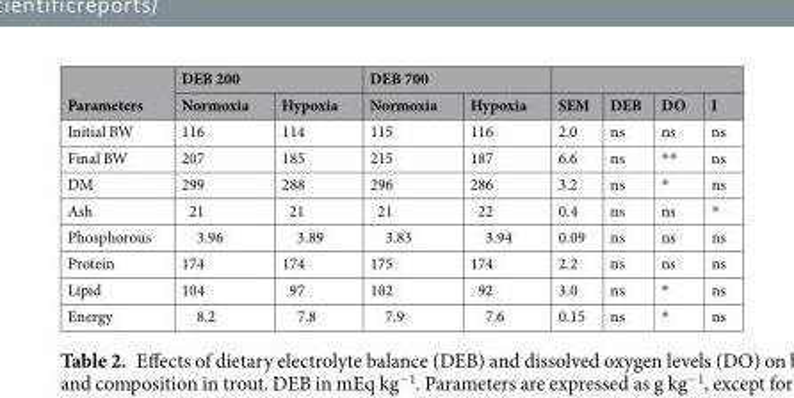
<table><thead><tr><td rowspan="2">Parameters</td><td colspan="2">DEB 200</td><td colspan="2">DEB 700</td><td rowspan="2">SEM</td><td rowspan="2">DEB</td><td rowspan="2">DO</td><td rowspan="2">I</td></tr><tr><td>Normoxia</td><td>Hypoxia</td><td>Normoxia</td><td>Hypoxia</td></tr></thead><tbody><tr><td>Initial BW</td><td>116</td><td>114</td><td>115</td><td>116</td><td>2.0</td><td>ns</td><td>ns</td><td>ns</td></tr><tr><td>Final BW</td><td>207</td><td>185</td><td>215</td><td>187</td><td>6.6</td><td>ns</td><td>**</td><td>ns</td></tr><tr><td>DM</td><td>299</td><td>288</td><td>296</td><td>286</td><td>3.2</td><td>ns</td><td>*</td><td>ns</td></tr><tr><td>Ash</td><td>21</td><td>21</td><td>21</td><td>22</td><td>0.4</td><td>ns</td><td>ns</td><td>*</td></tr><tr><td>Phosphorous</td><td>3.96</td><td>3.89</td><td>3.83</td><td>3.94</td><td>0.09</td><td>ns</td><td>ns</td><td>ns</td></tr><tr><td>Protein</td><td>174</td><td>174</td><td>175</td><td>174</td><td>2.2</td><td>ns</td><td>ns</td><td>ns</td></tr><tr><td>Lipid</td><td>104</td><td>97</td><td>102</td><td>92</td><td>3.0</td><td>ns</td><td>*</td><td>ns</td></tr><tr><td>Energy</td><td>8.2</td><td>7.8</td><td>7.9</td><td>7.6</td><td>0.15</td><td>ns</td><td>*</td><td>ns</td></tr></tbody></table>